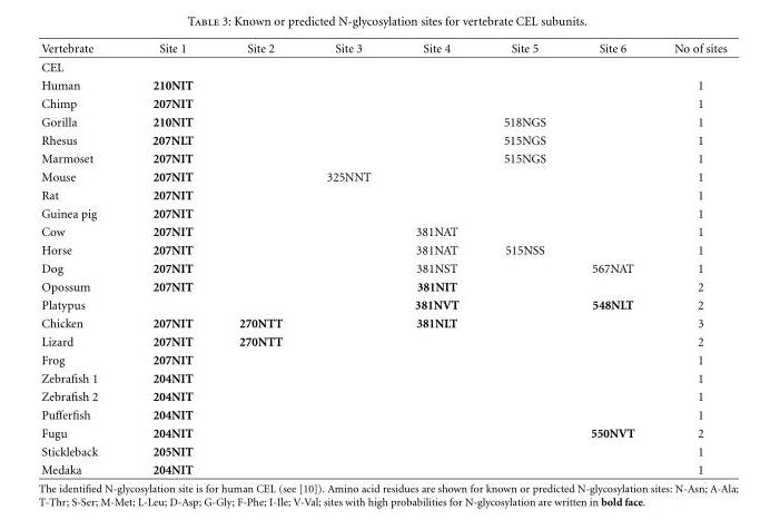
<table><thead><tr><td>Vertebrate</td><td>Site 1</td><td>Site 2</td><td>Site 3</td><td>Site 4</td><td>Site 5</td><td>Site 6</td><td>No of sites</td></tr></thead><tbody><tr><td colspan="8">CEL</td></tr><tr><td>Human</td><td>210NIT</td><td></td><td></td><td></td><td></td><td></td><td>1</td></tr><tr><td>Chimp</td><td>207NIT</td><td></td><td></td><td></td><td></td><td></td><td>1</td></tr><tr><td>Gorilla</td><td>210NIT</td><td></td><td></td><td></td><td>518NGS</td><td></td><td>1</td></tr><tr><td>Rhesus</td><td>207NLT</td><td></td><td></td><td></td><td>515NGS</td><td></td><td>1</td></tr><tr><td>Marmoset</td><td>207NIT</td><td></td><td></td><td></td><td>515NGS</td><td></td><td>1</td></tr><tr><td>Mouse</td><td>207NIT</td><td></td><td>325NNT</td><td></td><td></td><td></td><td>1</td></tr><tr><td>Rat</td><td>207NIT</td><td></td><td></td><td></td><td></td><td></td><td>1</td></tr><tr><td>Guinea pig</td><td>207NIT</td><td></td><td></td><td></td><td></td><td></td><td>1</td></tr><tr><td>Cow</td><td>207NIT</td><td></td><td></td><td>381NAT</td><td></td><td></td><td>1</td></tr><tr><td>Horse</td><td>207NIT</td><td></td><td></td><td>381NAT</td><td>515NSS</td><td></td><td>1</td></tr><tr><td>Dog</td><td>207NIT</td><td></td><td></td><td>381NST</td><td></td><td>567NAT</td><td>1</td></tr><tr><td>Opossum</td><td>207NIT</td><td></td><td></td><td>381NIT</td><td></td><td></td><td>2</td></tr><tr><td>Platypus</td><td></td><td></td><td></td><td>381NVT</td><td></td><td>548NLT</td><td>2</td></tr><tr><td>Chicken</td><td>207NIT</td><td>270NTT</td><td></td><td>381NLT</td><td></td><td></td><td>3</td></tr><tr><td>Lizard</td><td>207NIT</td><td>270NTT</td><td></td><td></td><td></td><td></td><td>2</td></tr><tr><td>Frog</td><td>207NIT</td><td></td><td></td><td></td><td></td><td></td><td>1</td></tr><tr><td>Zebrafish 1</td><td>204NIT</td><td></td><td></td><td></td><td></td><td></td><td>1</td></tr><tr><td>Zebrafish 2</td><td>204NIT</td><td></td><td></td><td></td><td></td><td></td><td>1</td></tr><tr><td>Pufferfish</td><td>204NIT</td><td></td><td></td><td></td><td></td><td></td><td>1</td></tr><tr><td>Fugu</td><td>204NIT</td><td></td><td></td><td></td><td></td><td>550NVT</td><td>2</td></tr><tr><td>Stickleback</td><td>205NIT</td><td></td><td></td><td></td><td></td><td></td><td>1</td></tr><tr><td>Medaka</td><td>204NIT</td><td></td><td></td><td></td><td></td><td></td><td>1</td></tr></tbody></table>